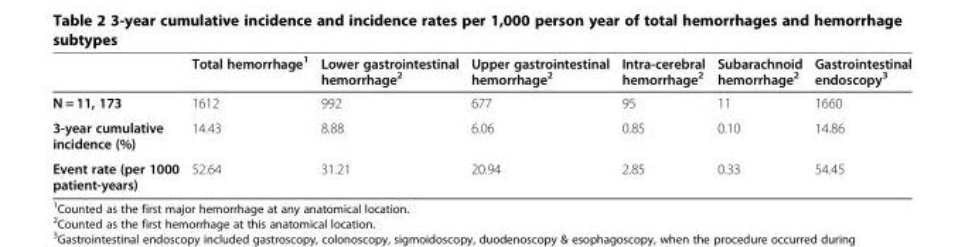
<table><thead><tr><td></td><td>Total hemorrhage<sup>1</sup></td><td>Lower gastrointestinal hemorrhage<sup>2</sup></td><td>Upper gastrointestinal hemorrhage<sup>2</sup></td><td>Intra-cerebral hemorrhage<sup>2</sup></td><td>Subarachnoid hemorrhage<sup>2</sup></td><td>Gastrointestinal endoscopy<sup>3</sup></td></tr></thead><tbody><tr><td>N = 11, 173</td><td>1612</td><td>992</td><td>677</td><td>95</td><td>11</td><td>1660</td></tr><tr><td>3-year cumulative incidence (%)</td><td>14.43</td><td>8.88</td><td>6.06</td><td>0.85</td><td>0.10</td><td>14.86</td></tr><tr><td>Event rate (per 1000 patient-years)</td><td>52.64</td><td>31.21</td><td>20.94</td><td>2.85</td><td>0.33</td><td>54.45</td></tr></tbody></table>